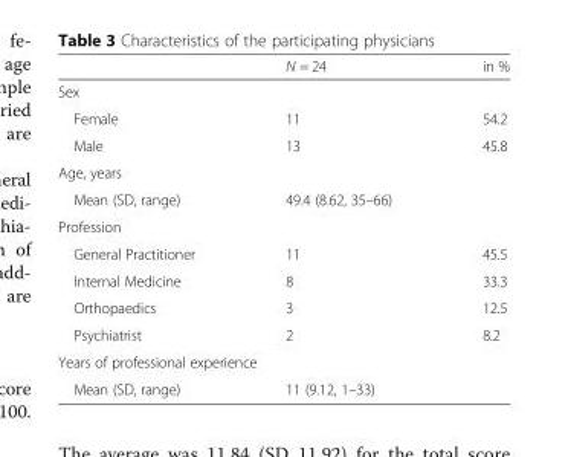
<table><thead><tr><td></td><td>N = 24</td><td>in %</td></tr></thead><tbody><tr><td colspan="3">Sex</td></tr><tr><td>Female</td><td>11</td><td>54.2</td></tr><tr><td>Male</td><td>13</td><td>45.8</td></tr><tr><td colspan="3">Age, years</td></tr><tr><td>Mean (SD, range)</td><td>49.4 (8.62, 35–66)</td><td></td></tr><tr><td colspan="3">Profession</td></tr><tr><td>General Practitioner</td><td>11</td><td>45.5</td></tr><tr><td>Internal Medicine</td><td>8</td><td>33.3</td></tr><tr><td>Orthopaedics</td><td>3</td><td>12.5</td></tr><tr><td>Psychiatrist</td><td>2</td><td>8.2</td></tr><tr><td colspan="3">Years of professional experience</td></tr><tr><td>Mean (SD, range)</td><td>11 (9.12, 1–33)</td><td></td></tr></tbody></table>